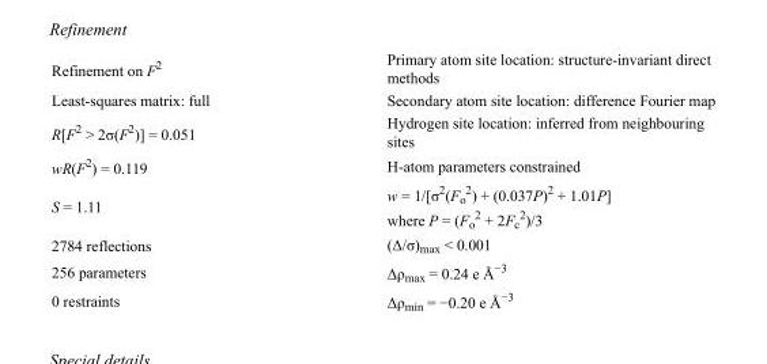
<table><tbody><tr><td>Refinement on F<sup>2</sup></td><td>Primary atom site location: structure-invariant direct methods</td></tr><tr><td>Least-squares matrix: full</td><td>Secondary atom site location: difference Fourier map</td></tr><tr><td>R[F<sup>2</sup> &gt; 2σ(F<sup>2</sup>)] = 0.051</td><td>Hydrogen site location: inferred from neighbouring sites</td></tr><tr><td>wR(F<sup>2</sup>) = 0.119</td><td>H-atom parameters constrained</td></tr><tr><td>S = 1.11</td><td>w = 1/[σ<sup>2</sup>(F<sub>o</sub> <sup>2</sup>) + (0.037P)<sup>2</sup> + 1.01P] where P = (F<sub>o</sub> <sup>2</sup> + 2F<sub>c</sub> <sup>2</sup>)/3</td></tr><tr><td>2784 reflections</td><td>(Δ/σ)<sub>max</sub> &lt; 0.001</td></tr><tr><td>256 parameters</td><td>Δρ<sub>max</sub> = 0.24 e Å<sup>−3</sup></td></tr><tr><td>0 restraints</td><td>Δρ<sub>min</sub> = −0.20 e Å<sup>−3</sup></td></tr></tbody></table>